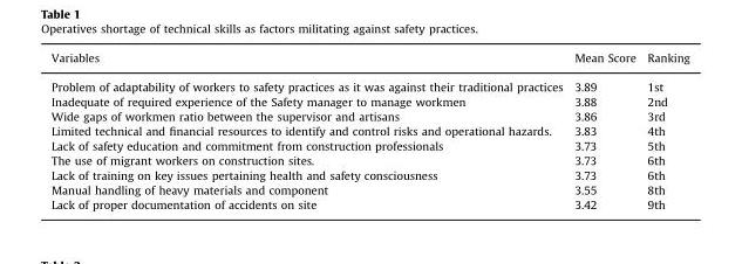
<table><thead><tr><td>Variables</td><td>Mean Score</td><td>Ranking</td></tr></thead><tbody><tr><td>Problem of adaptability of workers to safety practices as it was against their traditional practices</td><td>3.89</td><td>1st</td></tr><tr><td>Inadequate of required experience of the Safety manager to manage workmen</td><td>3.88</td><td>2nd</td></tr><tr><td>Wide gaps of workmen ratio between the supervisor and artisans</td><td>3.86</td><td>3rd</td></tr><tr><td>Limited technical and financial resources to identify and control risks and operational hazards.</td><td>3.83</td><td>4th</td></tr><tr><td>Lack of safety education and commitment from construction professionals</td><td>3.73</td><td>5th</td></tr><tr><td>The use of migrant workers on construction sites.</td><td>3.73</td><td>6th</td></tr><tr><td>Lack of training on key issues pertaining health and safety consciousness</td><td>3.73</td><td>6th</td></tr><tr><td>Manual handling of heavy materials and component</td><td>3.55</td><td>8th</td></tr><tr><td>Lack of proper documentation of accidents on site</td><td>3.42</td><td>9th</td></tr></tbody></table>